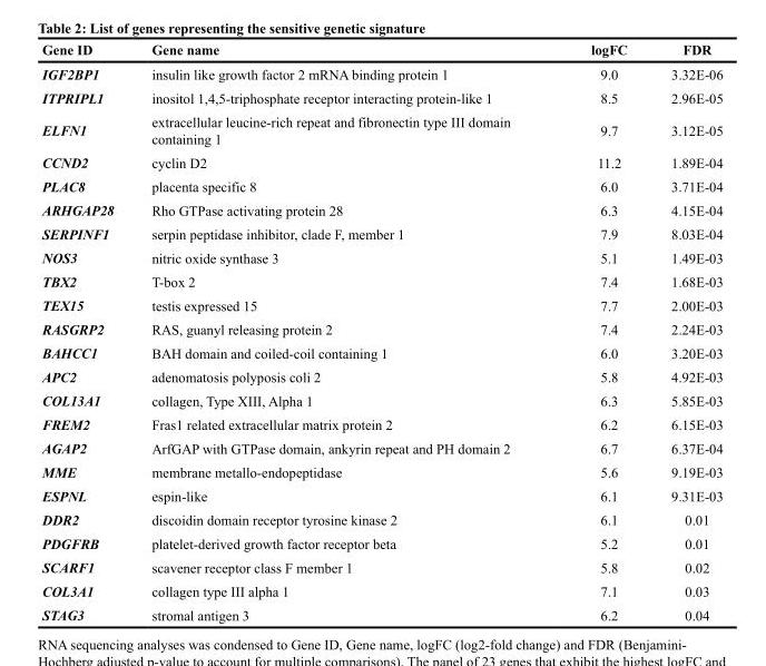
<table><thead><tr><td>Gene ID</td><td>Gene name</td><td>logFC</td><td>FDR</td></tr></thead><tbody><tr><td>IGF2BP1</td><td>insulin like growth factor 2 mRNA binding protein 1</td><td>9.0</td><td>3.32E-06</td></tr><tr><td>ITPRIPL1</td><td>inositol 1,4,5-triphosphate receptor interacting protein-like 1</td><td>8.5</td><td>2.96E-05</td></tr><tr><td>ELFN1</td><td>extracellular leucine-rich repeat and fibronectin type III domain containing 1</td><td>9.7</td><td>3.12E-05</td></tr><tr><td>CCND2</td><td>cyclin D2</td><td>11.2</td><td>1.89E-04</td></tr><tr><td>PLAC8</td><td>placenta specific 8</td><td>6.0</td><td>3.71E-04</td></tr><tr><td>ARHGAP28</td><td>Rho GTPase activating protein 28</td><td>6.3</td><td>4.15E-04</td></tr><tr><td>SERPINF1</td><td>serpin peptidase inhibitor, clade F, member 1</td><td>7.9</td><td>8.03E-04</td></tr><tr><td>NOS3</td><td>nitric oxide synthase 3</td><td>5.1</td><td>1.49E-03</td></tr><tr><td>TBX2</td><td>T-box 2</td><td>7.4</td><td>1.68E-03</td></tr><tr><td>TEX15</td><td>testis expressed 15</td><td>7.7</td><td>2.00E-03</td></tr><tr><td>RASGRP2</td><td>RAS, guanyl releasing protein 2</td><td>7.4</td><td>2.24E-03</td></tr><tr><td>BAHCC1</td><td>BAH domain and coiled-coil containing 1</td><td>6.0</td><td>3.20E-03</td></tr><tr><td>APC2</td><td>adenomatosis polyposis coli 2</td><td>5.8</td><td>4.92E-03</td></tr><tr><td>COL13A1</td><td>collagen, Type XIII, Alpha 1</td><td>6.3</td><td>5.85E-03</td></tr><tr><td>FREM2</td><td>Fras1 related extracellular matrix protein 2</td><td>6.2</td><td>6.15E-03</td></tr><tr><td>AGAP2</td><td>ArfGAP with GTPase domain, ankyrin repeat and PH domain 2</td><td>6.7</td><td>6.37E-04</td></tr><tr><td>MME</td><td>membrane metallo-endopeptidase</td><td>5.6</td><td>9.19E-03</td></tr><tr><td>ESPNL</td><td>espin-like</td><td>6.1</td><td>9.31E-03</td></tr><tr><td>DDR2</td><td>discoidin domain receptor tyrosine kinase 2</td><td>6.1</td><td>0.01</td></tr><tr><td>PDGFRB</td><td>platelet-derived growth factor receptor beta</td><td>5.2</td><td>0.01</td></tr><tr><td>SCARF1</td><td>scavener receptor class F member 1</td><td>5.8</td><td>0.02</td></tr><tr><td>COL3A1</td><td>collagen type III alpha 1</td><td>7.1</td><td>0.03</td></tr><tr><td>STAG3</td><td>stromal antigen 3</td><td>6.2</td><td>0.04</td></tr></tbody></table>